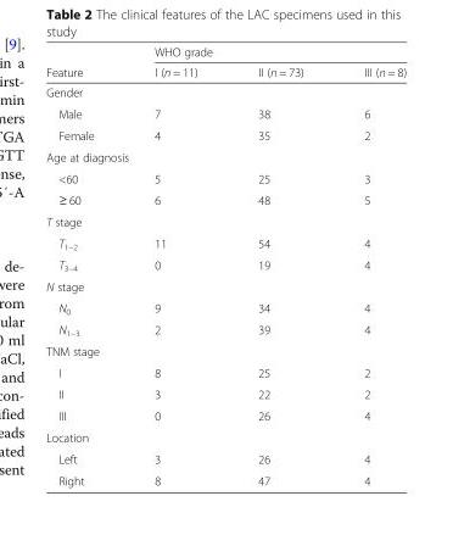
<table><thead><tr><td rowspan="2">Feature</td><td colspan="3">WHO grade</td></tr><tr><td>I (n = 11)</td><td>II (n = 73)</td><td>III (n = 8)</td></tr></thead><tbody><tr><td colspan="4">Gender</td></tr><tr><td>Male</td><td>7</td><td>38</td><td>6</td></tr><tr><td>Female</td><td>4</td><td>35</td><td>2</td></tr><tr><td colspan="4">Age at diagnosis</td></tr><tr><td>&lt;60</td><td>5</td><td>25</td><td>3</td></tr><tr><td>≥ 60</td><td>6</td><td>48</td><td>5</td></tr><tr><td colspan="4">T stage</td></tr><tr><td>T<sub>1–2</sub></td><td>11</td><td>54</td><td>4</td></tr><tr><td>T<sub>3–4</sub></td><td>0</td><td>19</td><td>4</td></tr><tr><td colspan="4">N stage</td></tr><tr><td>N<sub>0</sub></td><td>9</td><td>34</td><td>4</td></tr><tr><td>N<sub>1–3</sub></td><td>2</td><td>39</td><td>4</td></tr><tr><td colspan="4">TNM stage</td></tr><tr><td>I</td><td>8</td><td>25</td><td>2</td></tr><tr><td>II</td><td>3</td><td>22</td><td>2</td></tr><tr><td>III</td><td>0</td><td>26</td><td>4</td></tr><tr><td colspan="4">Location</td></tr><tr><td>Left</td><td>3</td><td>26</td><td>4</td></tr><tr><td>Right</td><td>8</td><td>47</td><td>4</td></tr></tbody></table>